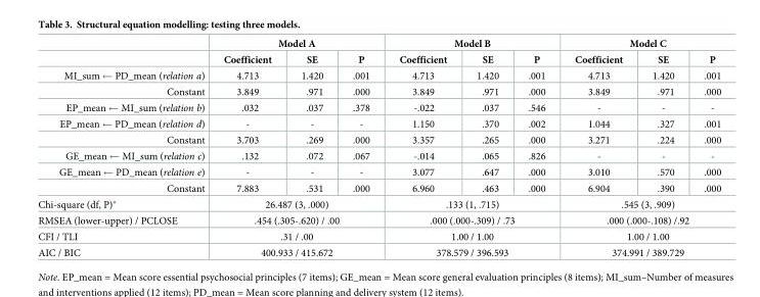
<table><thead><tr><td rowspan="2"></td><td colspan="3">Model A</td><td colspan="3">Model B</td><td colspan="3">Model C</td></tr><tr><td>Coefficient</td><td>SE</td><td>P</td><td>Coefficient</td><td>SE</td><td>P</td><td>Coefficient</td><td>SE</td><td>P</td></tr></thead><tbody><tr><td>MI_sum PD_mean (relation a)</td><td>4.713</td><td>1.420</td><td>.001</td><td>4.713</td><td>1.420</td><td>.001</td><td>4.713</td><td>1.420</td><td>.001</td></tr><tr><td>Constant</td><td>3.849</td><td>.971</td><td>.000</td><td>3.849</td><td>.971</td><td>.000</td><td>3.849</td><td>.971</td><td>.000</td></tr><tr><td>EP_mean MI_sum (relation b)</td><td>.032</td><td>.037</td><td>.378</td><td>-.022</td><td>.037</td><td>.546</td><td>-</td><td>-</td><td>-</td></tr><tr><td>EP_mean PD_mean (relation d)</td><td>-</td><td>-</td><td>-</td><td>1.150</td><td>.370</td><td>.002</td><td>1.044</td><td>.327</td><td>.001</td></tr><tr><td>Constant</td><td>3.703</td><td>.269</td><td>.000</td><td>3.357</td><td>.265</td><td>.000</td><td>3.271</td><td>.224</td><td>.000</td></tr><tr><td>GE_mean MI_sum (relation c)</td><td>.132</td><td>.072</td><td>.067</td><td>-.014</td><td>.065</td><td>.826</td><td>-</td><td>-</td><td>-</td></tr><tr><td>GE_mean PD_mean (relation e)</td><td>-</td><td>-</td><td>-</td><td>3.077</td><td>.647</td><td>.000</td><td>3.010</td><td>.570</td><td>.000</td></tr><tr><td>Constant</td><td>7.883</td><td>.531</td><td>.000</td><td>6.960</td><td>.463</td><td>.000</td><td>6.904</td><td>.390</td><td>.000</td></tr><tr><td>Chi-square (df, P)*</td><td colspan="3">26.487 (3, .000)</td><td colspan="3">.133 (1, .715)</td><td colspan="3">.545 (3, .909)</td></tr><tr><td>RMSEA (lower-upper) / PCLOSE</td><td colspan="3">.454 (.305-.620) / .00</td><td colspan="3">.000 (.000-.309) / .73</td><td colspan="3">.000 (.000-.108) /.92</td></tr><tr><td>CFI / TLI</td><td colspan="3">.31 / .00</td><td colspan="3">1.00 / 1.00</td><td colspan="3">1.00 / 1.00</td></tr><tr><td>AIC / BIC</td><td colspan="3">400.933 / 415.672</td><td colspan="3">378.579 / 396.593</td><td colspan="3">374.991 / 389.729</td></tr></tbody></table>